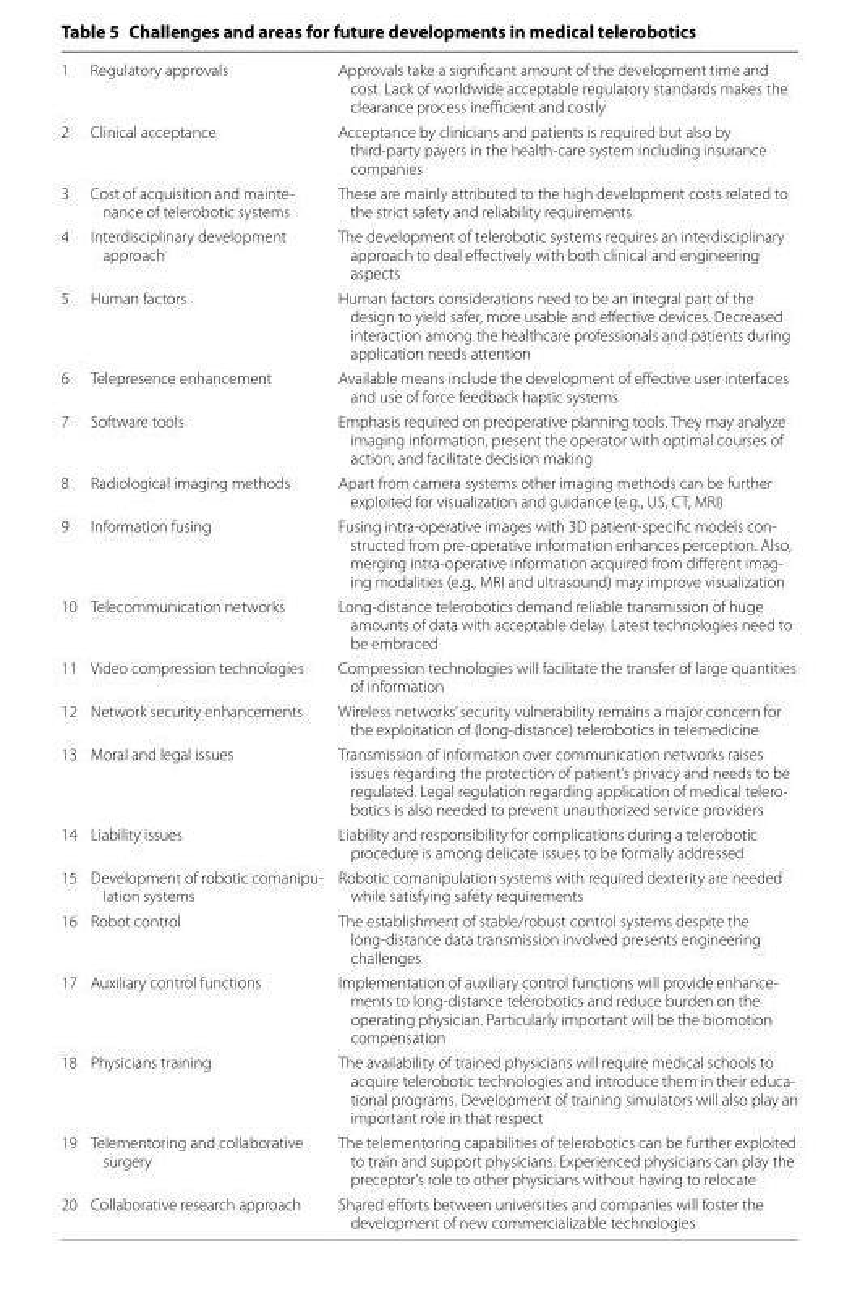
<table><tbody><tr><td>1</td><td>Regulatory approvals</td><td>Approvals take a significant amount of the development time and cost. Lack of worldwide acceptable regulatory standards makes the clearance process inefficient and costly</td></tr><tr><td>2</td><td>Clinical acceptance</td><td>Acceptance by clinicians and patients is required but also by third-party payers in the health-care system including insurance companies</td></tr><tr><td>3</td><td>Cost of acquisition and mainte- nance of telerobotic systems</td><td>These are mainly attributed to the high development costs related to the strict safety and reliability requirements</td></tr><tr><td>4</td><td>Interdisciplinary development approach</td><td>The development of telerobotic systems requires an interdisciplinary approach to deal effectively with both clinical and engineering aspects</td></tr><tr><td>5</td><td>Human factors</td><td>Human factors considerations need to be an integral part of the design to yield safer, more usable and effective devices. Decreased interaction among the healthcare professionals and patients during application needs attention</td></tr><tr><td>6</td><td>Telepresence enhancement</td><td>Available means include the development of effective user interfaces and use of force feedback haptic systems</td></tr><tr><td>7</td><td>Software tools</td><td>Emphasis required on preoperative planning tools. They may analyze imaging information, present the operator with optimal courses of action, and facilitate decision making</td></tr><tr><td>8</td><td>Radiological imaging methods</td><td>Apart from camera systems other imaging methods can be further exploited for visualization and guidance (e.g., US, CT, MRI)</td></tr><tr><td>9</td><td>Information fusing</td><td>Fusing intra-operative images with 3D patient-specific models con- structed from pre-operative information enhances perception. Also, merging intra-operative information acquired from different imag- ing modalities (e.g., MRI and ultrasound) may improve visualization</td></tr><tr><td>10</td><td>Telecommunication networks</td><td>Long-distance telerobotics demand reliable transmission of huge amounts of data with acceptable delay. Latest technologies need to be embraced</td></tr><tr><td>11</td><td>Video compression technologies</td><td>Compression technologies will facilitate the transfer of large quantities of information</td></tr><tr><td>12</td><td>Network security enhancements</td><td>Wireless networks’ security vulnerability remains a major concern for the exploitation of (long-distance) telerobotics in telemedicine</td></tr><tr><td>13</td><td>Moral and legal issues</td><td>Transmission of information over communication networks raises issues regarding the protection of patient’s privacy and needs to be regulated. Legal regulation regarding application of medical telero- botics is also needed to prevent unauthorized service providers</td></tr><tr><td>14</td><td>Liability issues</td><td>Liability and responsibility for complications during a telerobotic procedure is among delicate issues to be formally addressed</td></tr><tr><td>15</td><td>Development of robotic comanipu- lation systems</td><td>Robotic comanipulation systems with required dexterity are needed while satisfying safety requirements</td></tr><tr><td>16</td><td>Robot control</td><td>The establishment of stable/robust control systems despite the long-distance data transmission involved presents engineering challenges</td></tr><tr><td>17</td><td>Auxiliary control functions</td><td>Implementation of auxiliary control functions will provide enhance- ments to long-distance telerobotics and reduce burden on the operating physician. Particularly important will be the biomotion compensation</td></tr><tr><td>18</td><td>Physicians training</td><td>The availability of trained physicians will require medical schools to acquire telerobotic technologies and introduce them in their educa- tional programs. Development of training simulators will also play an important role in that respect</td></tr><tr><td>19</td><td>Telementoring and collaborative surgery</td><td>The telementoring capabilities of telerobotics can be further exploited to train and support physicians. Experienced physicians can play the preceptor’s role to other physicians without having to relocate</td></tr><tr><td>20</td><td>Collaborative research approach</td><td>Shared efforts between universities and companies will foster the development of new commercializable technologies</td></tr></tbody></table>